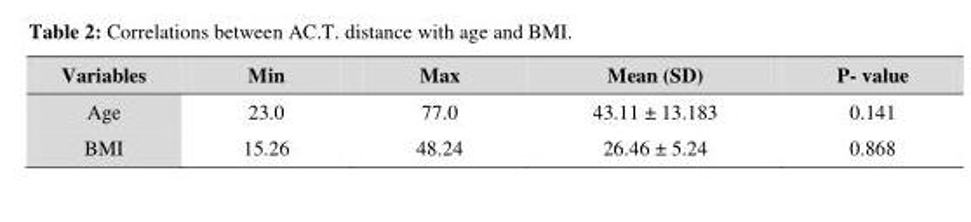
<table><thead><tr><td>Variables</td><td>Min</td><td>Max</td><td>Mean (SD)</td><td>P- value</td></tr></thead><tbody><tr><td>Age</td><td>23.0</td><td>77.0</td><td>43.11 ± 13.183</td><td>0.141</td></tr><tr><td>BMI</td><td>15.26</td><td>48.24</td><td>26.46 ± 5.24</td><td>0.868</td></tr></tbody></table>